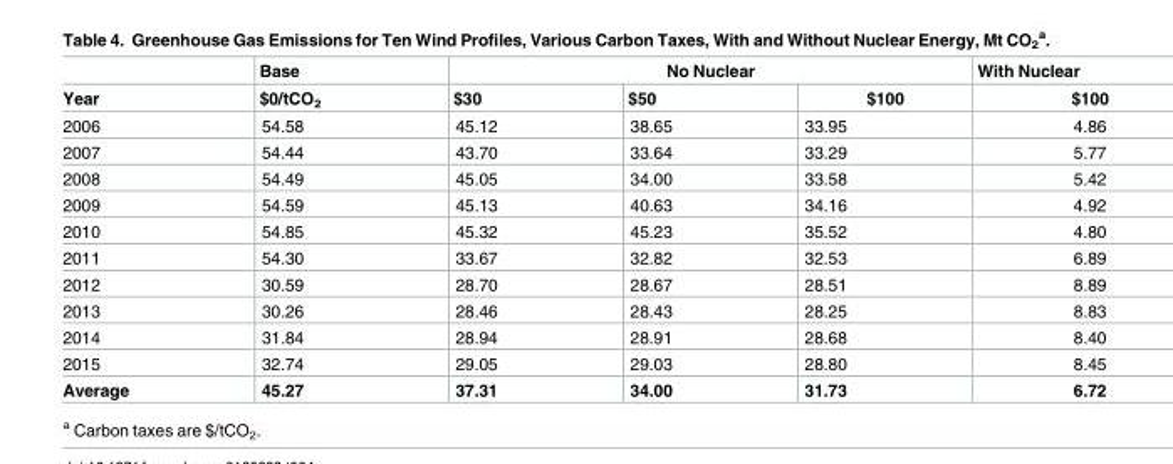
<table><thead><tr><td rowspan="2">Year</td><td rowspan="2">Base $0/tCO<sub>2</sub></td><td colspan="3">No Nuclear</td><td rowspan="2">With Nuclear $100</td></tr><tr><td>$30</td><td>$50</td><td>$100</td></tr></thead><tbody><tr><td>2006</td><td>54.58</td><td>45.12</td><td>38.65</td><td>33.95</td><td>4.86</td></tr><tr><td>2007</td><td>54.44</td><td>43.70</td><td>33.64</td><td>33.29</td><td>5.77</td></tr><tr><td>2008</td><td>54.49</td><td>45.05</td><td>34.00</td><td>33.58</td><td>5.42</td></tr><tr><td>2009</td><td>54.59</td><td>45.13</td><td>40.63</td><td>34.16</td><td>4.92</td></tr><tr><td>2010</td><td>54.85</td><td>45.32</td><td>45.23</td><td>35.52</td><td>4.80</td></tr><tr><td>2011</td><td>54.30</td><td>33.67</td><td>32.82</td><td>32.53</td><td>6.89</td></tr><tr><td>2012</td><td>30.59</td><td>28.70</td><td>28.67</td><td>28.51</td><td>8.89</td></tr><tr><td>2013</td><td>30.26</td><td>28.46</td><td>28.43</td><td>28.25</td><td>8.83</td></tr><tr><td>2014</td><td>31.84</td><td>28.94</td><td>28.91</td><td>28.68</td><td>8.40</td></tr><tr><td>2015</td><td>32.74</td><td>29.05</td><td>29.03</td><td>28.80</td><td>8.45</td></tr><tr><td>Average</td><td>45.27</td><td>37.31</td><td>34.00</td><td>31.73</td><td>6.72</td></tr></tbody></table>